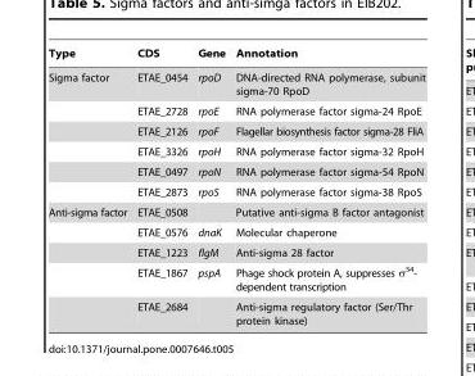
<table><thead><tr><td>Type</td><td>CDS</td><td>Gene</td><td>Annotation</td></tr></thead><tbody><tr><td rowspan="6">Sigma factor</td><td>ETAE_0454</td><td>rpoD</td><td>DNA-directed RNA polymerase, subunit sigma-70 RpoD</td></tr><tr><td>ETAE_2728</td><td>rpoE</td><td>RNA polymerase factor sigma-24 RpoE</td></tr><tr><td>ETAE_2126</td><td>rpoF</td><td>Flagellar biosynthesis factor sigma-28 FliA</td></tr><tr><td>ETAE_3326</td><td>rpoH</td><td>RNA polymerase factor sigma-32 RpoH</td></tr><tr><td>ETAE_0497</td><td>rpoN</td><td>RNA polymerase factor sigma-54 RpoN</td></tr><tr><td>ETAE_2873</td><td>rpoS</td><td>RNA polymerase factor sigma-38 RpoS</td></tr><tr><td rowspan="5">Anti-sigma factor</td><td>ETAE_0508</td><td></td><td>Putative anti-sigma B factor antagonist</td></tr><tr><td>ETAE_0576</td><td>dnaK</td><td>Molecular chaperone</td></tr><tr><td>ETAE_1223</td><td>flgM</td><td>Anti-sigma 28 factor</td></tr><tr><td>ETAE_1867</td><td>pspA</td><td>Phage shock protein A, suppresses σ<sup>54</sup>- dependent transcription</td></tr><tr><td>ETAE_2684</td><td></td><td>Anti-sigma regulatory factor (Ser/Thr protein kinase)</td></tr></tbody></table>